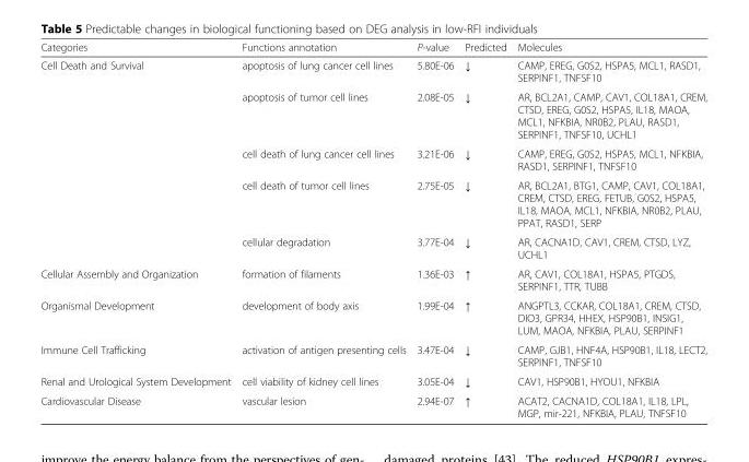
<table><thead><tr><td>Categories</td><td>Functions annotation</td><td>P-value</td><td>Predicted</td><td>Molecules</td></tr></thead><tbody><tr><td rowspan="5">Cell Death and Survival</td><td>apoptosis of lung cancer cell lines</td><td>5.80E-06</td><td>↓</td><td>CAMP, EREG, G0S2, HSPA5, MCL1, RASD1, SERPINF1, TNFSF10</td></tr><tr><td>apoptosis of tumor cell lines</td><td>2.08E-05</td><td>↓</td><td>AR, BCL2A1, CAMP, CAV1, COL18A1, CREM, CTSD, EREG, G0S2, HSPA5, IL18, MAOA, MCL1, NFKBIA, NR0B2, PLAU, RASD1, SERPINF1, TNFSF10, UCHL1</td></tr><tr><td>cell death of lung cancer cell lines</td><td>3.21E-06</td><td>↓</td><td>CAMP, EREG, G0S2, HSPA5, MCL1, NFKBIA, RASD1, SERPINF1, TNFSF10</td></tr><tr><td>cell death of tumor cell lines</td><td>2.75E-05</td><td>↓</td><td>AR, BCL2A1, BTG1, CAMP, CAV1, COL18A1, CREM, CTSD, EREG, FETUB, G0S2, HSPA5, IL18, MAOA, MCL1, NFKBIA, NR0B2, PLAU, PPAT, RASD1, SERP</td></tr><tr><td>cellular degradation</td><td>3.77E-04</td><td>↓</td><td>AR, CACNA1D, CAV1, CREM, CTSD, LYZ, UCHL1</td></tr><tr><td>Cellular Assembly and Organization</td><td>formation of filaments</td><td>1.36E-03</td><td>↑</td><td>AR, CAV1, COL18A1, HSPA5, PTGDS, SERPINF1, TTR, TUBB</td></tr><tr><td>Organismal Development</td><td>development of body axis</td><td>1.99E-04</td><td>↑</td><td>ANGPTL3, CCKAR, COL18A1, CREM, CTSD, DIO3, GPR34, HHEX, HSP90B1, INSIG1, LUM, MAOA, NFKBIA, PLAU, SERPINF1</td></tr><tr><td>Immune Cell Trafficking</td><td>activation of antigen presenting cells</td><td>3.47E-04</td><td>↓</td><td>CAMP, GJB1, HNF4A, HSP90B1, IL18, LECT2, SERPINF1, TNFSF10</td></tr><tr><td>Renal and Urological System Development</td><td>cell viability of kidney cell lines</td><td>3.05E-04</td><td>↓</td><td>CAV1, HSP90B1, HYOU1, NFKBIA</td></tr><tr><td>Cardiovascular Disease</td><td>vascular lesion</td><td>2.94E-07</td><td>↑</td><td>ACAT2, CACNA1D, COL18A1, IL18, LPL, MGP, mir-221, NFKBIA, PLAU, TNFSF10</td></tr></tbody></table>